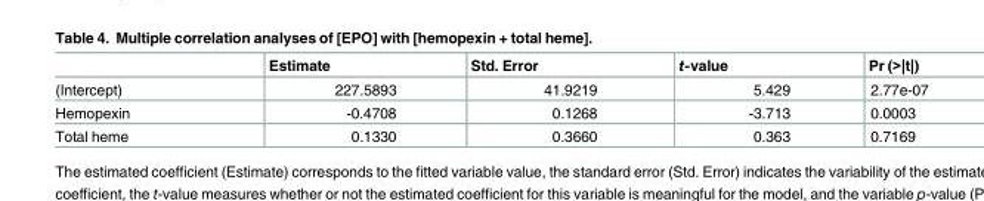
<table><thead><tr><td></td><td>Estimate</td><td>Std. Error</td><td>t-value</td><td>Pr (&gt;|t|)</td></tr></thead><tbody><tr><td>(Intercept)</td><td>227.5893</td><td>41.9219</td><td>5.429</td><td>2.77e-07</td></tr><tr><td>Hemopexin</td><td>-0.4708</td><td>0.1268</td><td>-3.713</td><td>0.0003</td></tr><tr><td>Total heme</td><td>0.1330</td><td>0.3660</td><td>0.363</td><td>0.7169</td></tr></tbody></table>